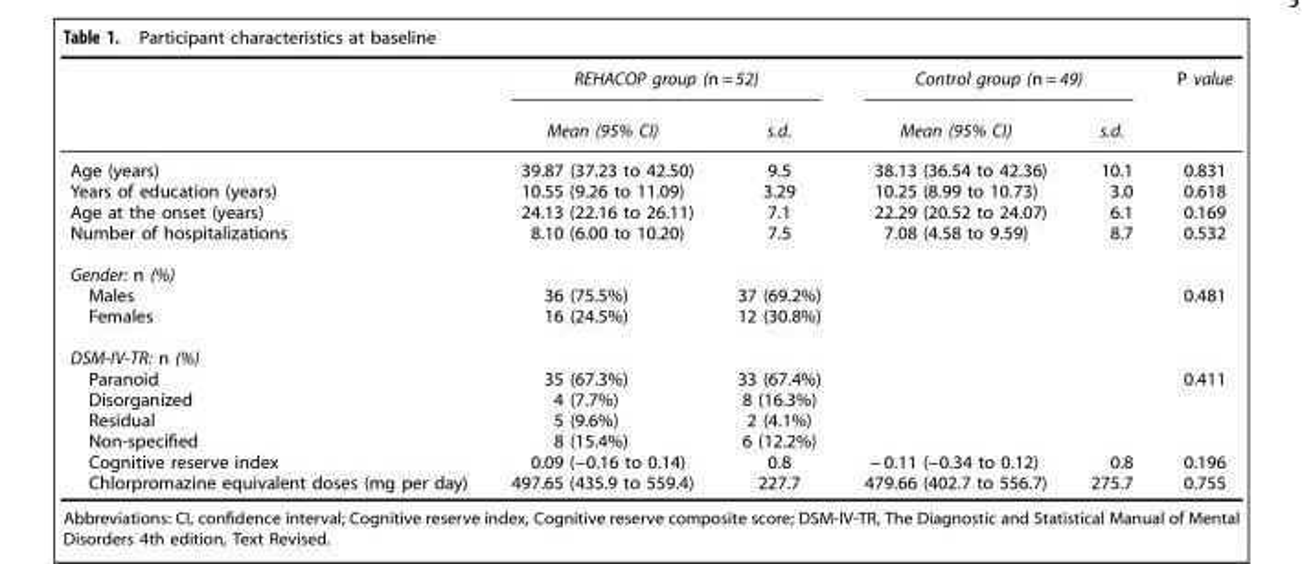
<table><thead><tr><td rowspan="2"></td><td colspan="2">REHACOP group (n = 52)</td><td colspan="2">Control group (n = 49)</td><td rowspan="2">P value</td></tr><tr><td>Mean (95% CI)</td><td>s.d.</td><td>Mean (95% CI)</td><td>s.d.</td></tr></thead><tbody><tr><td>Age (years)</td><td>39.87 (37.23 to 42.50)</td><td>9.5</td><td>38.13 (36.54 to 42.36)</td><td>10.1</td><td>0.831</td></tr><tr><td>Years of education (years)</td><td>10.55 (9.26 to 11.09)</td><td>3.29</td><td>10.25 (8.99 to 10.73)</td><td>3.0</td><td>0.618</td></tr><tr><td>Age at the onset (years)</td><td>24.13 (22.16 to 26.11)</td><td>7.1</td><td>22.29 (20.52 to 24.07)</td><td>6.1</td><td>0.169</td></tr><tr><td>Number of hospitalizations</td><td>8.10 (6.00 to 10.20)</td><td>7.5</td><td>7.08 (4.58 to 9.59)</td><td>8.7</td><td>0.532</td></tr><tr><td colspan="6">Gender: n (%)</td></tr><tr><td>Males</td><td>36 (75.5%)</td><td>37 (69.2%)</td><td></td><td></td><td>0.481</td></tr><tr><td>Females</td><td>16 (24.5%)</td><td>12 (30.8%)</td><td></td><td></td><td></td></tr><tr><td colspan="6">DSM-IV-TR: n (%)</td></tr><tr><td>Paranoid</td><td>35 (67.3%)</td><td>33 (67.4%)</td><td></td><td></td><td>0.411</td></tr><tr><td>Disorganized</td><td>4 (7.7%)</td><td>8 (16.3%)</td><td></td><td></td><td></td></tr><tr><td>Residual</td><td>5 (9.6%)</td><td>2 (4.1%)</td><td></td><td></td><td></td></tr><tr><td>Non-specified</td><td>8 (15.4%)</td><td>6 (12.2%)</td><td></td><td></td><td></td></tr><tr><td>Cognitive reserve index</td><td>0.09 (−0.16 to 0.14)</td><td>0.8</td><td>− 0.11 (−0.34 to 0.12)</td><td>0.8</td><td>0.196</td></tr><tr><td>Chlorpromazine equivalent doses (mg per day)</td><td>497.65 (435.9 to 559.4)</td><td>227.7</td><td>479.66 (402.7 to 556.7)</td><td>275.7</td><td>0.755</td></tr></tbody></table>